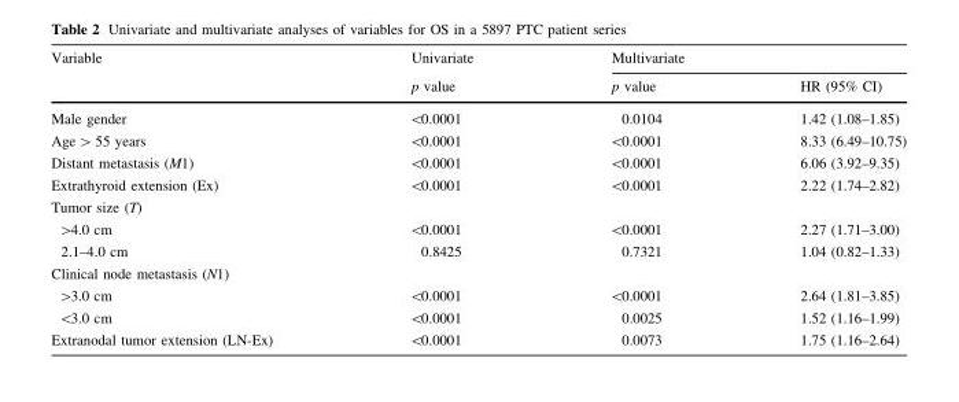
<table><thead><tr><td rowspan="2">Variable</td><td rowspan="2">Univariate p value</td><td colspan="2">Multivariate</td></tr><tr><td>p value</td><td>HR (95% CI)</td></tr></thead><tbody><tr><td>Male gender</td><td>&lt;0.0001</td><td>0.0104</td><td>1.42 (1.08–1.85)</td></tr><tr><td>Age &gt; 55 years</td><td>&lt;0.0001</td><td>&lt;0.0001</td><td>8.33 (6.49–10.75)</td></tr><tr><td>Distant metastasis (M1)</td><td>&lt;0.0001</td><td>&lt;0.0001</td><td>6.06 (3.92–9.35)</td></tr><tr><td>Extrathyroid extension (Ex)</td><td>&lt;0.0001</td><td>&lt;0.0001</td><td>2.22 (1.74–2.82)</td></tr><tr><td colspan="4">Tumor size (T)</td></tr><tr><td>&gt;4.0 cm</td><td>&lt;0.0001</td><td>&lt;0.0001</td><td>2.27 (1.71–3.00)</td></tr><tr><td>2.1–4.0 cm</td><td>0.8425</td><td>0.7321</td><td>1.04 (0.82–1.33)</td></tr><tr><td colspan="4">Clinical node metastasis (N1)</td></tr><tr><td>&gt;3.0 cm</td><td>&lt;0.0001</td><td>&lt;0.0001</td><td>2.64 (1.81–3.85)</td></tr><tr><td>&lt;3.0 cm</td><td>&lt;0.0001</td><td>0.0025</td><td>1.52 (1.16–1.99)</td></tr><tr><td>Extranodal tumor extension (LN-Ex)</td><td>&lt;0.0001</td><td>0.0073</td><td>1.75 (1.16–2.64)</td></tr></tbody></table>